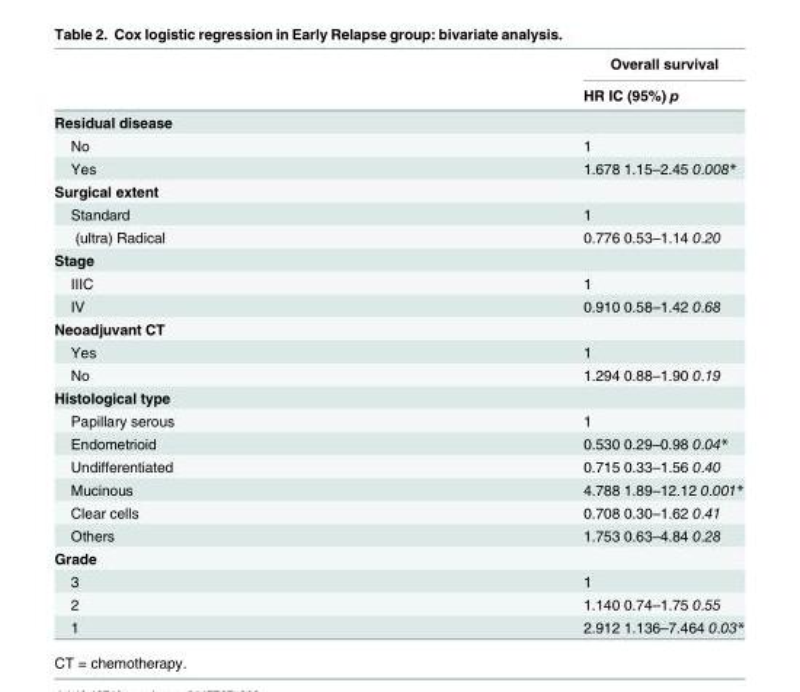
<table><thead><tr><td rowspan="2"></td><td rowspan="2">Overall survival HR IC (95%) p</td></tr><tr></tr></thead><tbody><tr><td colspan="2">Residual disease</td></tr><tr><td>No</td><td>1</td></tr><tr><td>Yes</td><td>1.678 1.15–2.45 0.008*</td></tr><tr><td colspan="2">Surgical extent</td></tr><tr><td>Standard</td><td>1</td></tr><tr><td>(ultra) Radical</td><td>0.776 0.53–1.14 0.20</td></tr><tr><td colspan="2">Stage</td></tr><tr><td>IIIC</td><td>1</td></tr><tr><td>IV</td><td>0.910 0.58–1.42 0.68</td></tr><tr><td colspan="2">Neoadjuvant CT</td></tr><tr><td>Yes</td><td>1</td></tr><tr><td>No</td><td>1.294 0.88–1.90 0.19</td></tr><tr><td colspan="2">Histological type</td></tr><tr><td>Papillary serous</td><td>1</td></tr><tr><td>Endometrioid</td><td>0.530 0.29–0.98 0.04*</td></tr><tr><td>Undifferentiated</td><td>0.715 0.33–1.56 0.40</td></tr><tr><td>Mucinous</td><td>4.788 1.89–12.12 0.001*</td></tr><tr><td>Clear cells</td><td>0.708 0.30–1.62 0.41</td></tr><tr><td>Others</td><td>1.753 0.63–4.84 0.28</td></tr><tr><td colspan="2">Grade</td></tr><tr><td>3</td><td>1</td></tr><tr><td>2</td><td>1.140 0.74–1.75 0.55</td></tr><tr><td>1</td><td>2.912 1.136–7.464 0.03*</td></tr></tbody></table>